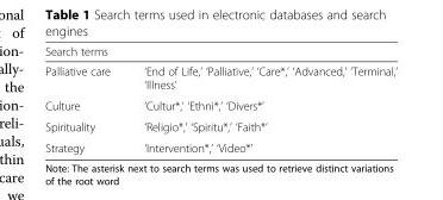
<table><thead><tr><td colspan="2">Search terms</td></tr><tr><td>Palliative care</td><td>‘End of Life,’ ‘Palliative,’ ‘Care*,’ ‘Advanced,’ ‘Terminal,’ ‘Illness’</td></tr></thead><tbody><tr><td>Culture</td><td>‘Cultur*,’ ‘Ethni*,’ ‘Divers*’</td></tr><tr><td>Spirituality</td><td>‘Religio*,’ ‘Spiritu*,’ ‘Faith*’</td></tr><tr><td>Strategy</td><td>‘Intervention*,’ ‘Video*’</td></tr></tbody></table>